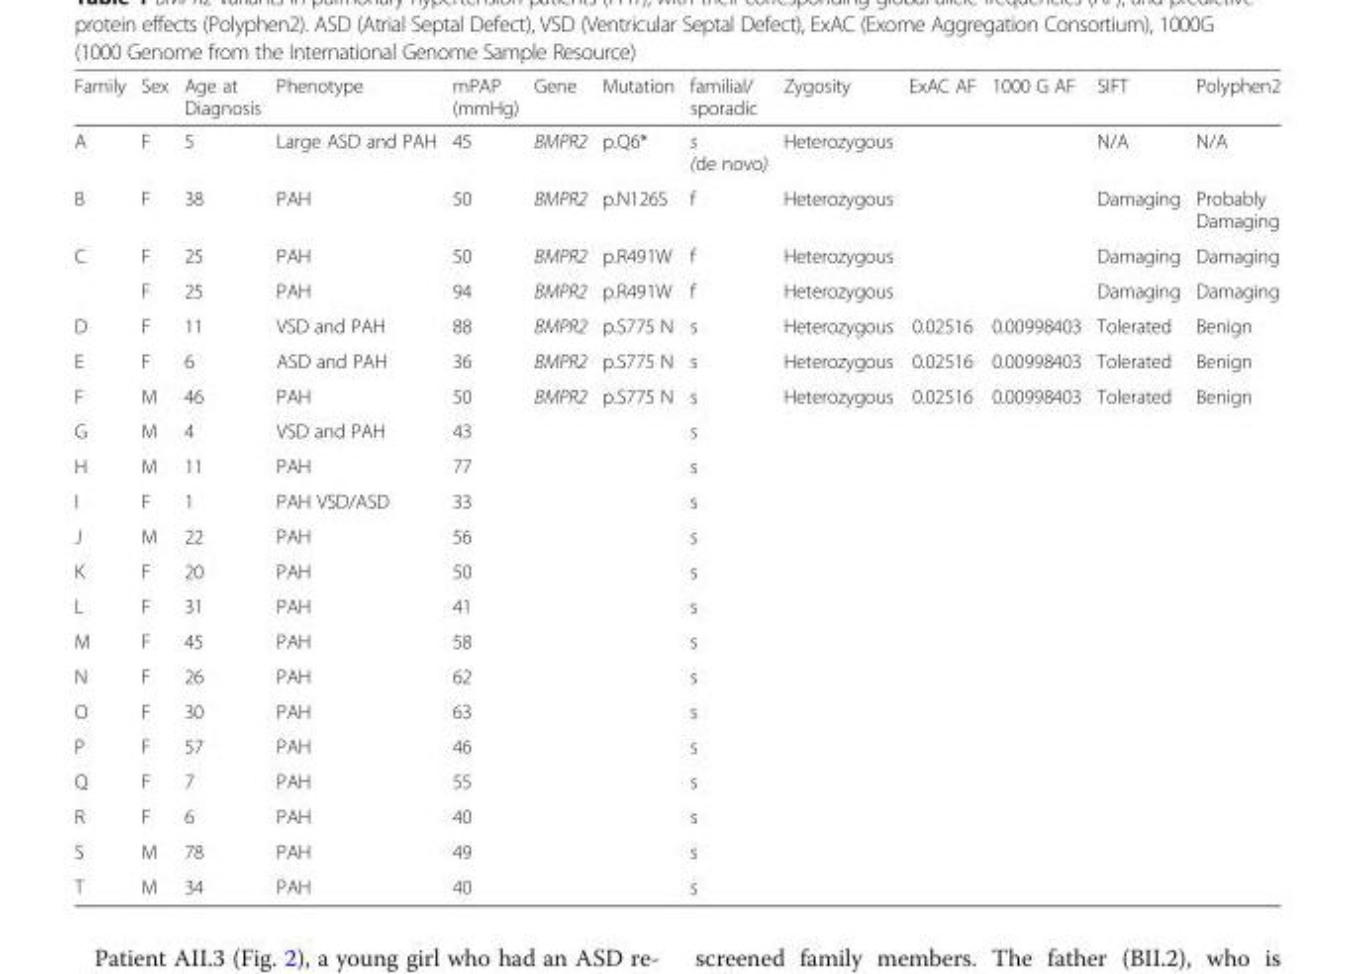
<table><thead><tr><td>Family</td><td>Sex</td><td>Age at Diagnosis</td><td>Phenotype</td><td>mPAP (mmHg)</td><td>Gene</td><td>Mutation</td><td>familial/ sporadic</td><td>Zygosity</td><td>ExAC AF</td><td>1000 G AF</td><td>SIFT</td><td>Polyphen2</td></tr></thead><tbody><tr><td>A</td><td>F</td><td>5</td><td>Large ASD and PAH</td><td>45</td><td>BMPR2</td><td>p.Q6*</td><td>s (de novo)</td><td>Heterozygous</td><td></td><td></td><td>N/A</td><td>N/A</td></tr><tr><td>B</td><td>F</td><td>38</td><td>PAH</td><td>50</td><td>BMPR2</td><td>p.N126S</td><td>f</td><td>Heterozygous</td><td></td><td></td><td>Damaging</td><td>Probably Damaging</td></tr><tr><td rowspan="2">C</td><td>F</td><td>25</td><td>PAH</td><td>50</td><td>BMPR2</td><td>p.R491W</td><td>f</td><td>Heterozygous</td><td></td><td></td><td>Damaging</td><td>Damaging</td></tr><tr><td>F</td><td>25</td><td>PAH</td><td>94</td><td>BMPR2</td><td>p.R491W</td><td>f</td><td>Heterozygous</td><td></td><td></td><td>Damaging</td><td>Damaging</td></tr><tr><td>D</td><td>F</td><td>11</td><td>VSD and PAH</td><td>88</td><td>BMPR2</td><td>p.S775 N</td><td>s</td><td>Heterozygous</td><td>0.02516</td><td>0.00998403</td><td>Tolerated</td><td>Benign</td></tr><tr><td>E</td><td>F</td><td>6</td><td>ASD and PAH</td><td>36</td><td>BMPR2</td><td>p.S775 N</td><td>s</td><td>Heterozygous</td><td>0.02516</td><td>0.00998403</td><td>Tolerated</td><td>Benign</td></tr><tr><td>F</td><td>M</td><td>46</td><td>PAH</td><td>50</td><td>BMPR2</td><td>p.S775 N</td><td>s</td><td>Heterozygous</td><td>0.02516</td><td>0.00998403</td><td>Tolerated</td><td>Benign</td></tr><tr><td>G</td><td>M</td><td>4</td><td>VSD and PAH</td><td>43</td><td></td><td></td><td>s</td><td></td><td></td><td></td><td></td><td></td></tr><tr><td>H</td><td>M</td><td>11</td><td>PAH</td><td>77</td><td></td><td></td><td>s</td><td></td><td></td><td></td><td></td><td></td></tr><tr><td>I</td><td>F</td><td>1</td><td>PAH VSD/ASD</td><td>33</td><td></td><td></td><td>s</td><td></td><td></td><td></td><td></td><td></td></tr><tr><td>J</td><td>M</td><td>22</td><td>PAH</td><td>56</td><td></td><td></td><td>s</td><td></td><td></td><td></td><td></td><td></td></tr><tr><td>K</td><td>F</td><td>20</td><td>PAH</td><td>50</td><td></td><td></td><td>s</td><td></td><td></td><td></td><td></td><td></td></tr><tr><td>L</td><td>F</td><td>31</td><td>PAH</td><td>41</td><td></td><td></td><td>s</td><td></td><td></td><td></td><td></td><td></td></tr><tr><td>M</td><td>F</td><td>45</td><td>PAH</td><td>58</td><td></td><td></td><td>s</td><td></td><td></td><td></td><td></td><td></td></tr><tr><td>N</td><td>F</td><td>26</td><td>PAH</td><td>62</td><td></td><td></td><td>s</td><td></td><td></td><td></td><td></td><td></td></tr><tr><td>O</td><td>F</td><td>30</td><td>PAH</td><td>63</td><td></td><td></td><td>s</td><td></td><td></td><td></td><td></td><td></td></tr><tr><td>P</td><td>F</td><td>57</td><td>PAH</td><td>46</td><td></td><td></td><td>s</td><td></td><td></td><td></td><td></td><td></td></tr><tr><td>Q</td><td>F</td><td>7</td><td>PAH</td><td>55</td><td></td><td></td><td>s</td><td></td><td></td><td></td><td></td><td></td></tr><tr><td>R</td><td>F</td><td>6</td><td>PAH</td><td>40</td><td></td><td></td><td>s</td><td></td><td></td><td></td><td></td><td></td></tr><tr><td>S</td><td>M</td><td>78</td><td>PAH</td><td>49</td><td></td><td></td><td>s</td><td></td><td></td><td></td><td></td><td></td></tr><tr><td>T</td><td>M</td><td>34</td><td>PAH</td><td>40</td><td></td><td></td><td>s</td><td></td><td></td><td></td><td></td><td></td></tr></tbody></table>